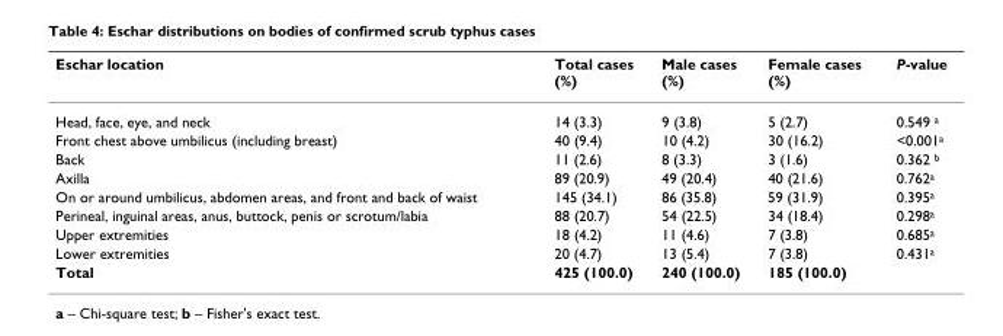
<table><thead><tr><td>Eschar location</td><td>Total cases (%)</td><td>Male cases (%)</td><td>Female cases (%)</td><td>P-value</td></tr></thead><tbody><tr><td>Head, face, eye, and neck</td><td>14 (3.3)</td><td>9 (3.8)</td><td>5 (2.7)</td><td>0.549 <sup>a</sup></td></tr><tr><td>Front chest above umbilicus (including breast)</td><td>40 (9.4)</td><td>10 (4.2)</td><td>30 (16.2)</td><td>&lt;0.001<sup>a</sup></td></tr><tr><td>Back</td><td>11 (2.6)</td><td>8 (3.3)</td><td>3 (1.6)</td><td>0.362 <sup>b</sup></td></tr><tr><td>Axilla</td><td>89 (20.9)</td><td>49 (20.4)</td><td>40 (21.6)</td><td>0.762<sup>a</sup></td></tr><tr><td>On or around umbilicus, abdomen areas, and front and back of waist</td><td>145 (34.1)</td><td>86 (35.8)</td><td>59 (31.9)</td><td>0.395<sup>a</sup></td></tr><tr><td>Perineal, inguinal areas, anus, buttock, penis or scrotum/labia</td><td>88 (20.7)</td><td>54 (22.5)</td><td>34 (18.4)</td><td>0.298<sup>a</sup></td></tr><tr><td>Upper extremities</td><td>18 (4.2)</td><td>11 (4.6)</td><td>7 (3.8)</td><td>0.685<sup>a</sup></td></tr><tr><td>Lower extremities</td><td>20 (4.7)</td><td>13 (5.4)</td><td>7 (3.8)</td><td>0.431<sup>a</sup></td></tr><tr><td>Total</td><td>425 (100.0)</td><td>240 (100.0)</td><td>185 (100.0)</td><td></td></tr></tbody></table>